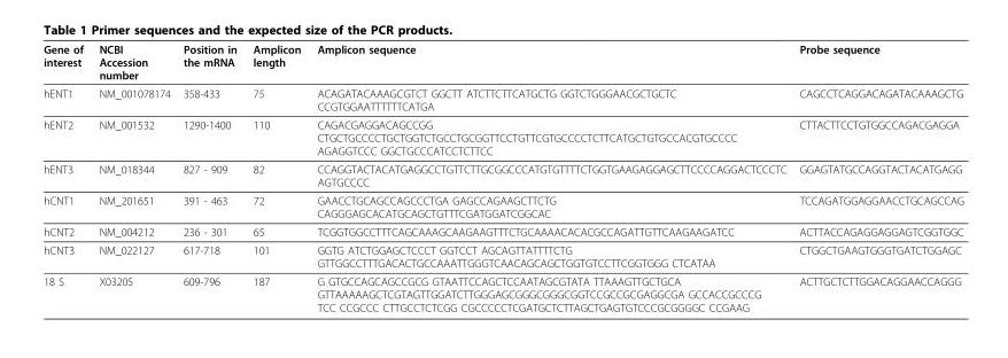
<table><thead><tr><td>Gene of interest</td><td>NCBI Accession number</td><td>Position in the mRNA</td><td>Amplicon length</td><td>Amplicon sequence</td><td>Probe sequence</td></tr></thead><tbody><tr><td>hENT1</td><td>NM_001078174</td><td>358-433</td><td>75</td><td>ACAGATACAAAGCGTCT GGCTT ATCTTCTTCATGCTG GGTCTGGGAACGCTGCTC CCGTGGAATTTTTTCATGA</td><td>CAGCCTCAGGACAGATACAAAGCTG</td></tr><tr><td>hENT2</td><td>NM_001532</td><td>1290-1400</td><td>110</td><td>CAGACGAGGACAGCCGG CTGCTGCCCCTGCTGGTCTGCCTGCGGTTCCTGTTCGTGCCCCTCTTCATGCTGTGCCACGTGCCCC AGAGGTCCC GGCTGCCCATCCTCTTCC</td><td>CTTACTTCCTGTGGCCAGACGAGGA</td></tr><tr><td>hENT3</td><td>NM_018344</td><td>827 - 909</td><td>82</td><td>CCAGGTACTACATGAGGCCTGTTCTTGCGGCCCATGTGTTTTCTGGTGAAGAGGAGCTTCCCCAGGACTCCCTC AGTGCCCC</td><td>GGAGTATGCCAGGTACTACATGAGG</td></tr><tr><td>hCNT1</td><td>NM_201651</td><td>391 - 463</td><td>72</td><td>GAACCTGCAGCCAGCCCTGA GAGCCAGAAGCTTCTG CAGGGAGCACATGCAGCTGTTTCGATGGATCGGCAC</td><td>TCCAGATGGAGGAACCTGCAGCCAG</td></tr><tr><td>hCNT2</td><td>NM_004212</td><td>236 - 301</td><td>65</td><td>TCGGTGGCCTTTCAGCAAAGCAAGAAGTTTCTGCAAAACACACGCCAGATTGTTCAAGAAGATCC</td><td>ACTTACCAGAGGAGGAGTCGGTGGC</td></tr><tr><td>hCNT3</td><td>NM_022127</td><td>617-718</td><td>101</td><td>GGTG ATCTGGAGCTCCCT GGTCCT AGCAGTTATTTTCTG GTTGGCCTTTGACACTGCCAAATTGGGTCAACAGCAGCTGGTGTCCTTCGGTGGG CTCATAA</td><td>CTGGCTGAAGTGGGTGATCTGGAGC</td></tr><tr><td>18 S</td><td>X03205</td><td>609-796</td><td>187</td><td>G GTGCCAGCAGCCGCG GTAATTCCAGCTCCAATAGCGTATA TTAAAGTTGCTGCA GTTAAAAAGCTCGTAGTTGGATCTTGGGAGCGGGCGGGCGGTCCGCCGCGAGGCGA GCCACCGCCCG TCC CCGCCC CTTGCCTCTCGG CGCCCCCTCGATGCTCTTAGCTGAGTGTCCCGCGGGGC CCGAAG</td><td>ACTTGCTCTTGGACAGGAACCAGGG</td></tr></tbody></table>